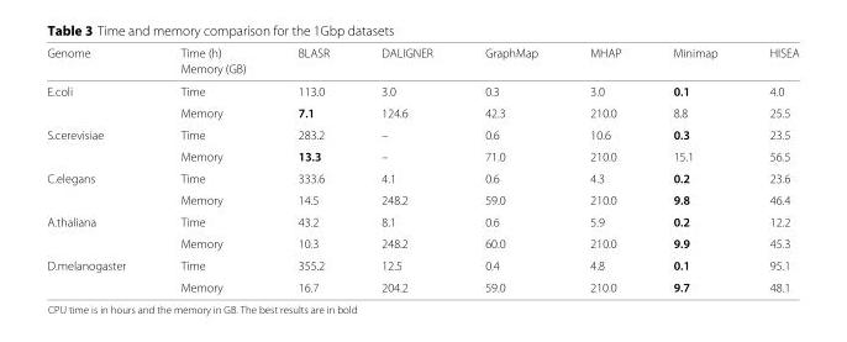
<table><thead><tr><td rowspan="2">Genome</td><td rowspan="2">Time (h) Memory (GB)</td><td rowspan="2">BLASR</td><td rowspan="2">DALIGNER</td><td rowspan="2">GraphMap</td><td rowspan="2">MHAP</td><td rowspan="2">Minimap</td><td rowspan="2">HISEA</td></tr><tr></tr></thead><tbody><tr><td rowspan="2">E.coli</td><td>Time</td><td>113.0</td><td>3.0</td><td>0.3</td><td>3.0</td><td>0.1</td><td>4.0</td></tr><tr><td>Memory</td><td>7.1</td><td>124.6</td><td>42.3</td><td>210.0</td><td>8.8</td><td>25.5</td></tr><tr><td rowspan="2">S.cerevisiae</td><td>Time</td><td>283.2</td><td>–</td><td>0.6</td><td>10.6</td><td>0.3</td><td>23.5</td></tr><tr><td>Memory</td><td>13.3</td><td>–</td><td>71.0</td><td>210.0</td><td>15.1</td><td>56.5</td></tr><tr><td rowspan="2">C.elegans</td><td>Time</td><td>333.6</td><td>4.1</td><td>0.6</td><td>4.3</td><td>0.2</td><td>23.6</td></tr><tr><td>Memory</td><td>14.5</td><td>248.2</td><td>59.0</td><td>210.0</td><td>9.8</td><td>46.4</td></tr><tr><td rowspan="2">A.thaliana</td><td>Time</td><td>43.2</td><td>8.1</td><td>0.6</td><td>5.9</td><td>0.2</td><td>12.2</td></tr><tr><td>Memory</td><td>10.3</td><td>248.2</td><td>60.0</td><td>210.0</td><td>9.9</td><td>45.3</td></tr><tr><td rowspan="2">D.melanogaster</td><td>Time</td><td>355.2</td><td>12.5</td><td>0.4</td><td>4.8</td><td>0.1</td><td>95.1</td></tr><tr><td>Memory</td><td>16.7</td><td>204.2</td><td>59.0</td><td>210.0</td><td>9.7</td><td>48.1</td></tr></tbody></table>